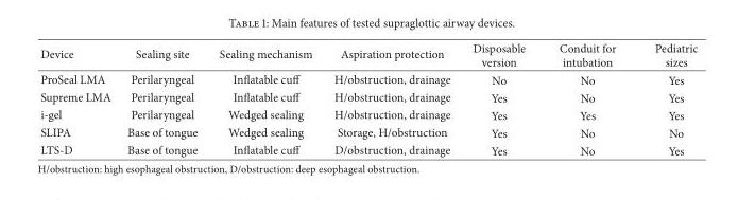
<table><thead><tr><td>Device</td><td>Sealing site</td><td>Sealing mechanism</td><td>Aspiration protection</td><td>Disposable version</td><td>Conduit for intubation</td><td>Pediatric sizes</td></tr></thead><tbody><tr><td>ProSeal LMA</td><td>Perilaryngeal</td><td>Inflatable cuff</td><td>H/obstruction, drainage</td><td>No</td><td>No</td><td>Yes</td></tr><tr><td>Supreme LMA</td><td>Perilaryngeal</td><td>Inflatable cuff</td><td>H/obstruction, drainage</td><td>Yes</td><td>No</td><td>Yes</td></tr><tr><td>i-gel</td><td>Perilaryngeal</td><td>Wedged sealing</td><td>H/obstruction, drainage</td><td>Yes</td><td>Yes</td><td>Yes</td></tr><tr><td>SLIPA</td><td>Base of tongue</td><td>Wedged sealing</td><td>Storage, H/obstruction</td><td>Yes</td><td>No</td><td>No</td></tr><tr><td>LTS-D</td><td>Base of tongue</td><td>Inflatable cuff</td><td>D/obstruction, drainage</td><td>Yes</td><td>No</td><td>Yes</td></tr></tbody></table>